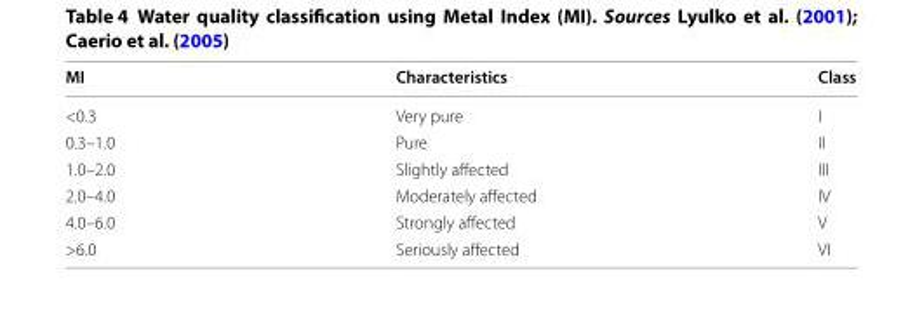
<table><thead><tr><td>MI</td><td>Characteristics</td><td>Class</td></tr></thead><tbody><tr><td>&lt;0.3</td><td>Very pure</td><td>I</td></tr><tr><td>0.3–1.0</td><td>Pure</td><td>II</td></tr><tr><td>1.0–2.0</td><td>Slightly affected</td><td>III</td></tr><tr><td>2.0–4.0</td><td>Moderately affected</td><td>IV</td></tr><tr><td>4.0–6.0</td><td>Strongly affected</td><td>V</td></tr><tr><td>&gt;6.0</td><td>Seriously affected</td><td>VI</td></tr></tbody></table>